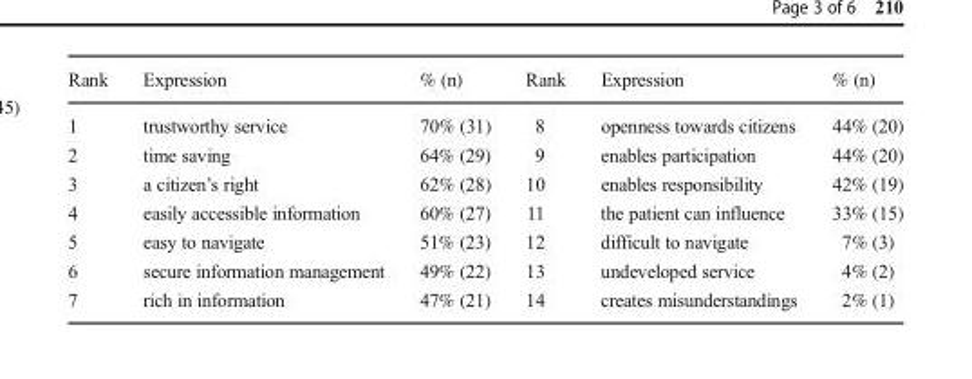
<table><thead><tr><td>Rank</td><td>Expression</td><td>% (n)</td><td>Rank</td><td>Expression</td><td>% (n)</td></tr></thead><tbody><tr><td>1</td><td>trustworthy service</td><td>70% (31)</td><td>8</td><td>openness towards citizens</td><td>44% (20)</td></tr><tr><td>2</td><td>time saving</td><td>64% (29)</td><td>9</td><td>enables participation</td><td>44% (20)</td></tr><tr><td>3</td><td>a citizen’s right</td><td>62% (28)</td><td>10</td><td>enables responsibility</td><td>42% (19)</td></tr><tr><td>4</td><td>easily accessible information</td><td>60% (27)</td><td>11</td><td>the patient can influence</td><td>33% (15)</td></tr><tr><td>5</td><td>easy to navigate</td><td>51% (23)</td><td>12</td><td>difficult to navigate</td><td>7% (3)</td></tr><tr><td>6</td><td>secure information management</td><td>49% (22)</td><td>13</td><td>undeveloped service</td><td>4% (2)</td></tr><tr><td>7</td><td>rich in information</td><td>47% (21)</td><td>14</td><td>creates misunderstandings</td><td>2% (1)</td></tr></tbody></table>